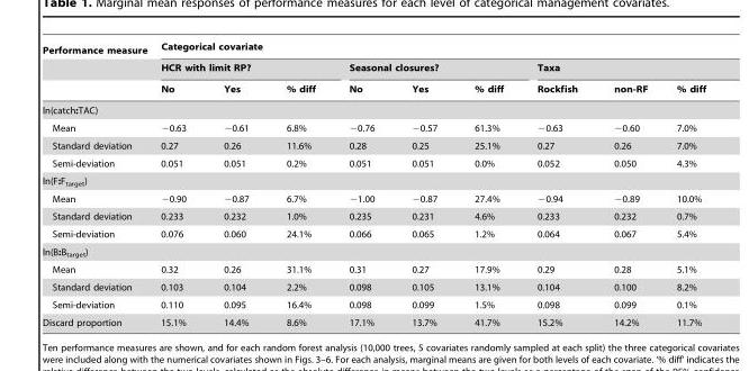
<table><thead><tr><td rowspan="3">Performance measure</td><td colspan="9">Categorical covariate</td></tr><tr><td colspan="3">HCR with limit RP?</td><td colspan="3">Seasonal closures?</td><td colspan="3">Taxa</td></tr><tr><td>No</td><td>Yes</td><td>% diff</td><td>No</td><td>Yes</td><td>% diff</td><td>Rockfish</td><td>non-RF</td><td>% diff</td></tr></thead><tbody><tr><td colspan="10">ln(catch:TAC)</td></tr><tr><td>Mean</td><td>−0.63</td><td>−0.61</td><td>6.8%</td><td>−0.76</td><td>−0.57</td><td>61.3%</td><td>−0.63</td><td>−0.60</td><td>7.0%</td></tr><tr><td>Standard deviation</td><td>0.27</td><td>0.26</td><td>11.6%</td><td>0.28</td><td>0.25</td><td>25.1%</td><td>0.27</td><td>0.26</td><td>7.0%</td></tr><tr><td>Semi-deviation</td><td>0.051</td><td>0.051</td><td>0.2%</td><td>0.051</td><td>0.051</td><td>0.0%</td><td>0.052</td><td>0.050</td><td>4.3%</td></tr><tr><td colspan="10">ln(F:F<sub>target</sub>)</td></tr><tr><td>Mean</td><td>−0.90</td><td>−0.87</td><td>6.7%</td><td>−1.00</td><td>−0.87</td><td>27.4%</td><td>−0.94</td><td>−0.89</td><td>10.0%</td></tr><tr><td>Standard deviation</td><td>0.233</td><td>0.232</td><td>1.0%</td><td>0.235</td><td>0.231</td><td>4.6%</td><td>0.233</td><td>0.232</td><td>0.7%</td></tr><tr><td>Semi-deviation</td><td>0.076</td><td>0.060</td><td>24.1%</td><td>0.066</td><td>0.065</td><td>1.2%</td><td>0.064</td><td>0.067</td><td>5.4%</td></tr><tr><td colspan="10">ln(B:B<sub>target</sub>)</td></tr><tr><td>Mean</td><td>0.32</td><td>0.26</td><td>31.1%</td><td>0.31</td><td>0.27</td><td>17.9%</td><td>0.29</td><td>0.28</td><td>5.1%</td></tr><tr><td>Standard deviation</td><td>0.103</td><td>0.104</td><td>2.2%</td><td>0.098</td><td>0.105</td><td>13.1%</td><td>0.104</td><td>0.100</td><td>8.2%</td></tr><tr><td>Semi-deviation</td><td>0.110</td><td>0.095</td><td>16.4%</td><td>0.098</td><td>0.099</td><td>1.5%</td><td>0.098</td><td>0.099</td><td>0.1%</td></tr><tr><td>Discard proportion</td><td>15.1%</td><td>14.4%</td><td>8.6%</td><td>17.1%</td><td>13.7%</td><td>41.7%</td><td>15.2%</td><td>14.2%</td><td>11.7%</td></tr></tbody></table>